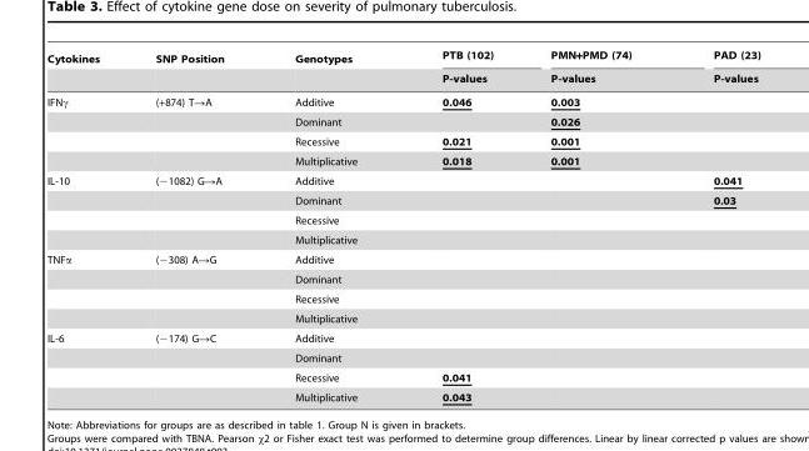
<table><thead><tr><td rowspan="2">Cytokines</td><td rowspan="2">SNP Position</td><td rowspan="2">Genotypes</td><td rowspan="2">PTB (102) P-values</td><td rowspan="2">PMN+PMD (74) P-values</td><td rowspan="2">PAD (23) P-values</td></tr><tr></tr></thead><tbody><tr><td rowspan="4">IFNγ</td><td>(+874) T→A</td><td>Additive</td><td>0.046</td><td>0.003</td><td></td></tr><tr><td></td><td>Dominant</td><td></td><td>0.026</td><td></td></tr><tr><td></td><td>Recessive</td><td>0.021</td><td>0.001</td><td></td></tr><tr><td></td><td>Multiplicative</td><td>0.018</td><td>0.001</td><td></td></tr><tr><td rowspan="4">IL-10</td><td>(−1082) G→A</td><td>Additive</td><td></td><td></td><td>0.041</td></tr><tr><td></td><td>Dominant</td><td></td><td></td><td>0.03</td></tr><tr><td></td><td>Recessive</td><td></td><td></td><td></td></tr><tr><td></td><td>Multiplicative</td><td></td><td></td><td></td></tr><tr><td rowspan="4">TNFα</td><td>(−308) A→G</td><td>Additive</td><td></td><td></td><td></td></tr><tr><td></td><td>Dominant</td><td></td><td></td><td></td></tr><tr><td></td><td>Recessive</td><td></td><td></td><td></td></tr><tr><td></td><td>Multiplicative</td><td></td><td></td><td></td></tr><tr><td rowspan="4">IL-6</td><td>(−174) G→C</td><td>Additive</td><td></td><td></td><td></td></tr><tr><td></td><td>Dominant</td><td></td><td></td><td></td></tr><tr><td></td><td>Recessive</td><td>0.041</td><td></td><td></td></tr><tr><td></td><td>Multiplicative</td><td>0.043</td><td></td><td></td></tr></tbody></table>